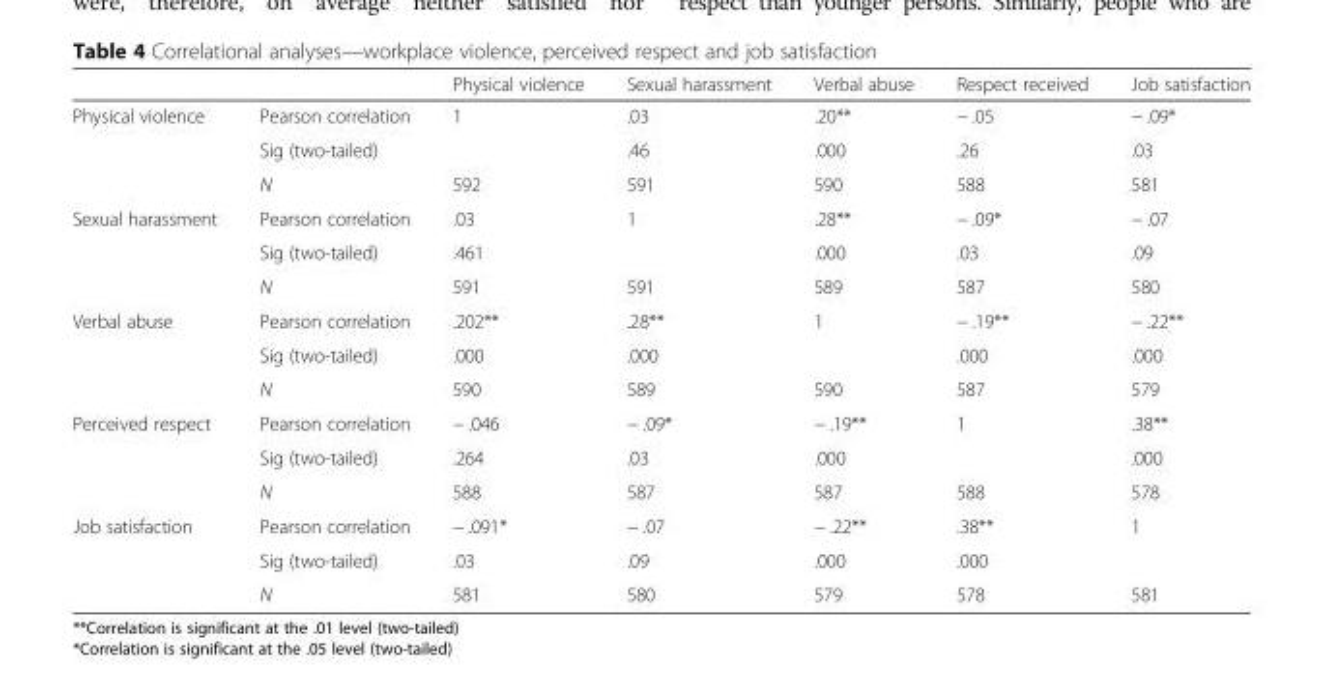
<table><thead><tr><td></td><td></td><td>Physical violence</td><td>Sexual harassment</td><td>Verbal abuse</td><td>Respect received</td><td>Job satisfaction</td></tr></thead><tbody><tr><td rowspan="3">Physical violence</td><td>Pearson correlation</td><td>1</td><td>.03</td><td>.20**</td><td>− .05</td><td>− .09*</td></tr><tr><td>Sig (two-tailed)</td><td></td><td>.46</td><td>.000</td><td>.26</td><td>.03</td></tr><tr><td>N</td><td>592</td><td>591</td><td>590</td><td>588</td><td>581</td></tr><tr><td rowspan="3">Sexual harassment</td><td>Pearson correlation</td><td>.03</td><td>1</td><td>.28**</td><td>− .09*</td><td>− .07</td></tr><tr><td>Sig (two-tailed)</td><td>.461</td><td></td><td>.000</td><td>.03</td><td>.09</td></tr><tr><td>N</td><td>591</td><td>591</td><td>589</td><td>587</td><td>580</td></tr><tr><td rowspan="3">Verbal abuse</td><td>Pearson correlation</td><td>.202**</td><td>.28**</td><td>1</td><td>− .19**</td><td>− .22**</td></tr><tr><td>Sig (two-tailed)</td><td>.000</td><td>.000</td><td></td><td>.000</td><td>.000</td></tr><tr><td>N</td><td>590</td><td>589</td><td>590</td><td>587</td><td>579</td></tr><tr><td rowspan="3">Perceived respect</td><td>Pearson correlation</td><td>− .046</td><td>− .09*</td><td>− .19**</td><td>1</td><td>.38**</td></tr><tr><td>Sig (two-tailed)</td><td>.264</td><td>.03</td><td>.000</td><td></td><td>.000</td></tr><tr><td>N</td><td>588</td><td>587</td><td>587</td><td>588</td><td>578</td></tr><tr><td rowspan="3">Job satisfaction</td><td>Pearson correlation</td><td>− .091*</td><td>− .07</td><td>− .22**</td><td>.38**</td><td>1</td></tr><tr><td>Sig (two-tailed)</td><td>.03</td><td>.09</td><td>.000</td><td>.000</td><td></td></tr><tr><td>N</td><td>581</td><td>580</td><td>579</td><td>578</td><td>581</td></tr></tbody></table>